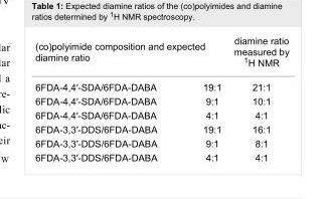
<table><tbody><tr><td colspan="2">(co)polyimide composition and expected diamine ratio</td><td>diamine ratio measured by <sup>1</sup>H NMR</td></tr><tr><td>6FDA-4,4′-SDA/6FDA-DABA</td><td>19:1</td><td>21:1</td></tr><tr><td>6FDA-4,4′-SDA/6FDA-DABA</td><td>9:1</td><td>10:1</td></tr><tr><td>6FDA-4,4′-SDA/6FDA-DABA</td><td>4:1</td><td>4:1</td></tr><tr><td>6FDA-3,3′-DDS/6FDA-DABA</td><td>19:1</td><td>16:1</td></tr><tr><td>6FDA-3,3′-DDS/6FDA-DABA</td><td>9:1</td><td>8:1</td></tr><tr><td>6FDA-3,3′-DDS/6FDA-DABA</td><td>4:1</td><td>4:1</td></tr></tbody></table>